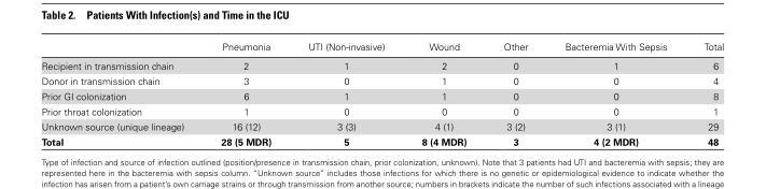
<table><thead><tr><td></td><td>Pneumonia</td><td>UTI (Non-invasive)</td><td>Wound</td><td>Other</td><td>Bacteremia With Sepsis</td><td>Total</td></tr></thead><tbody><tr><td>Recipient in transmission chain</td><td>2</td><td>1</td><td>2</td><td>0</td><td>1</td><td>6</td></tr><tr><td>Donor in transmission chain</td><td>3</td><td>0</td><td>1</td><td>0</td><td>0</td><td>4</td></tr><tr><td>Prior GI colonization</td><td>6</td><td>1</td><td>1</td><td>0</td><td>0</td><td>8</td></tr><tr><td>Prior throat colonization</td><td>1</td><td>0</td><td>0</td><td>0</td><td>0</td><td>1</td></tr><tr><td>Unknown source (unique lineage)</td><td>16 (12)</td><td>3 (3)</td><td>4 (1)</td><td>3 (2)</td><td>3 (1)</td><td>29</td></tr><tr><td>Total</td><td>28 (5 MDR)</td><td>5</td><td>8 (4 MDR)</td><td>3</td><td>4 (2 MDR)</td><td>48</td></tr></tbody></table>